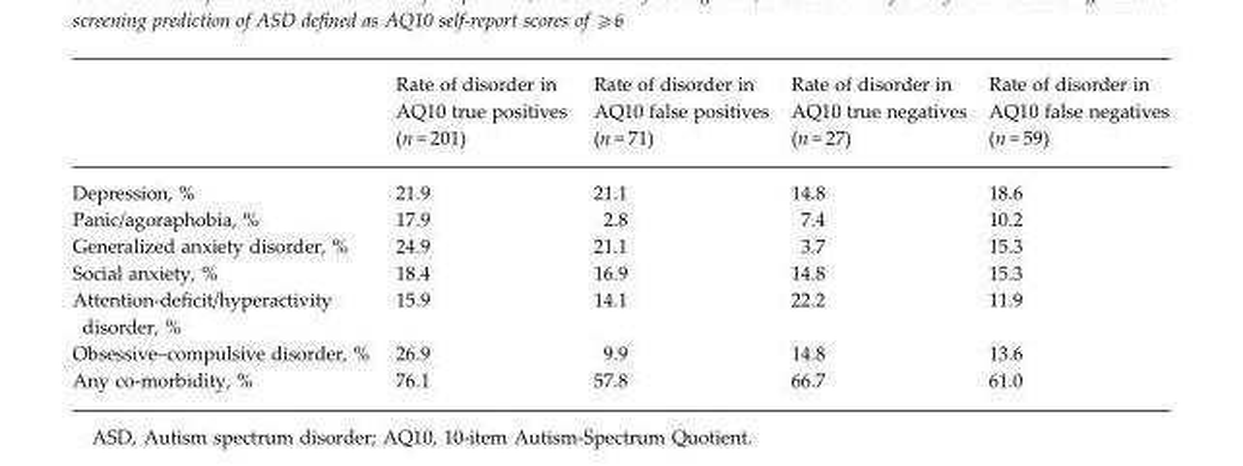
<table><thead><tr><td></td><td>Rate of disorder in AQ10 true positives (n = 201)</td><td>Rate of disorder in AQ10 false positives (n = 71)</td><td>Rate of disorder in AQ10 true negatives (n = 27)</td><td>Rate of disorder in AQ10 false negatives (n = 59)</td></tr></thead><tbody><tr><td>Depression, %</td><td>21.9</td><td>21.1</td><td>14.8</td><td>18.6</td></tr><tr><td>Panic/agoraphobia, %</td><td>17.9</td><td>2.8</td><td>7.4</td><td>10.2</td></tr><tr><td>Generalized anxiety disorder, %</td><td>24.9</td><td>21.1</td><td>3.7</td><td>15.3</td></tr><tr><td>Social anxiety, %</td><td>18.4</td><td>16.9</td><td>14.8</td><td>15.3</td></tr><tr><td>Attention-deficit/hyperactivity disorder, %</td><td>15.9</td><td>14.1</td><td>22.2</td><td>11.9</td></tr><tr><td>Obsessive–compulsive disorder, %</td><td>26.9</td><td>9.9</td><td>14.8</td><td>13.6</td></tr><tr><td>Any co-morbidity, %</td><td>76.1</td><td>57.8</td><td>66.7</td><td>61.0</td></tr></tbody></table>